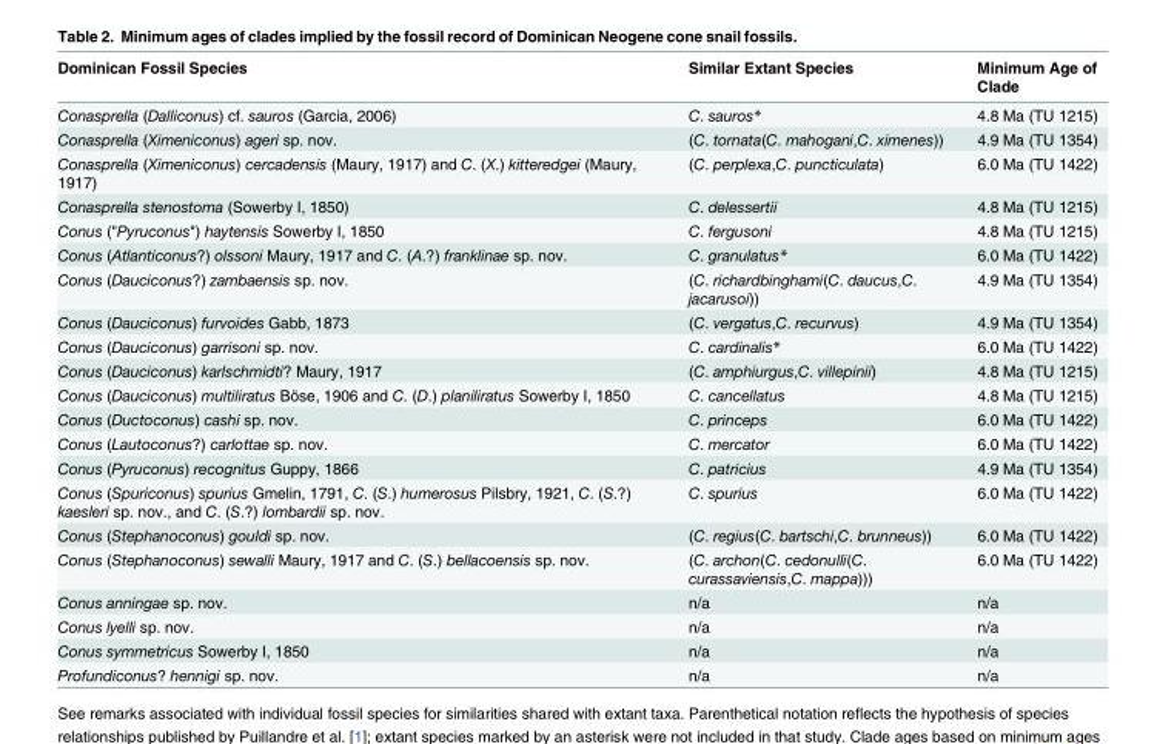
<table><thead><tr><td>Dominican Fossil Species</td><td>Similar Extant Species</td><td>Minimum Age of Clade</td></tr></thead><tbody><tr><td>Conasprella (Dalliconus) cf. sauros (Garcia, 2006)</td><td>C. sauros*</td><td>4.8 Ma (TU 1215)</td></tr><tr><td>Conasprella (Ximeniconus) ageri sp. nov.</td><td>(C. tornata(C. mahogani,C. ximenes))</td><td>4.9 Ma (TU 1354)</td></tr><tr><td>Conasprella (Ximeniconus) cercadensis (Maury, 1917) and C. (X.) kitteredgei (Maury, 1917)</td><td>(C. perplexa,C. puncticulata)</td><td>6.0 Ma (TU 1422)</td></tr><tr><td>Conasprella stenostoma (Sowerby I, 1850)</td><td>C. delessertii</td><td>4.8 Ma (TU 1215)</td></tr><tr><td>Conus (&quot;Pyruconus&quot;) haytensis Sowerby I, 1850</td><td>C. fergusoni</td><td>4.8 Ma (TU 1215)</td></tr><tr><td>Conus (Atlanticonus?) olssoni Maury, 1917 and C. (A.?) franklinae sp. nov.</td><td>C. granulatus*</td><td>6.0 Ma (TU 1422)</td></tr><tr><td>Conus (Dauciconus?) zambaensis sp. nov.</td><td>(C. richardbinghami(C. daucus,C. jacarusoi))</td><td>4.9 Ma (TU 1354)</td></tr><tr><td>Conus (Dauciconus) furvoides Gabb, 1873</td><td>(C. vergatus,C. recurvus)</td><td>4.9 Ma (TU 1354)</td></tr><tr><td>Conus (Dauciconus) garrisoni sp. nov.</td><td>C. cardinalis*</td><td>6.0 Ma (TU 1422)</td></tr><tr><td>Conus (Dauciconus) karlschmidti? Maury, 1917</td><td>(C. amphiurgus,C. villepinii)</td><td>4.8 Ma (TU 1215)</td></tr><tr><td>Conus (Dauciconus) multiliratus Böse, 1906 and C. (D.) planiliratus Sowerby I, 1850</td><td>C. cancellatus</td><td>4.8 Ma (TU 1215)</td></tr><tr><td>Conus (Ductoconus) cashi sp. nov.</td><td>C. princeps</td><td>6.0 Ma (TU 1422)</td></tr><tr><td>Conus (Lautoconus?) carlottae sp. nov.</td><td>C. mercator</td><td>6.0 Ma (TU 1422)</td></tr><tr><td>Conus (Pyruconus) recognitus Guppy, 1866</td><td>C. patricius</td><td>4.9 Ma (TU 1354)</td></tr><tr><td>Conus (Spuriconus) spurius Gmelin, 1791, C. (S.) humerosus Pilsbry, 1921, C. (S.?) kaesleri sp. nov., and C. (S.?) lombardii sp. nov.</td><td>C. spurius</td><td>6.0 Ma (TU 1422)</td></tr><tr><td>Conus (Stephanoconus) gouldi sp. nov.</td><td>(C. regius(C. bartschi,C. brunneus))</td><td>6.0 Ma (TU 1422)</td></tr><tr><td>Conus (Stephanoconus) sewalli Maury, 1917 and C. (S.) bellacoensis sp. nov.</td><td>(C. archon(C. cedonulli(C. curassaviensis,C. mappa)))</td><td>6.0 Ma (TU 1422)</td></tr><tr><td>Conus anningae sp. nov.</td><td>n/a</td><td>n/a</td></tr><tr><td>Conus lyelli sp. nov.</td><td>n/a</td><td>n/a</td></tr><tr><td>Conus symmetricus Sowerby I, 1850</td><td>n/a</td><td>n/a</td></tr><tr><td>Profundiconus? hennigi sp. nov.</td><td>n/a</td><td>n/a</td></tr></tbody></table>